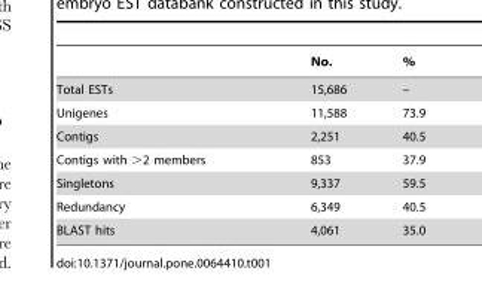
<table><thead><tr><td></td><td>No.</td><td>%</td></tr></thead><tbody><tr><td>Total ESTs</td><td>15,686</td><td>–</td></tr><tr><td>Unigenes</td><td>11,588</td><td>73.9</td></tr><tr><td>Contigs</td><td>2,251</td><td>40.5</td></tr><tr><td>Contigs with &gt;2 members</td><td>853</td><td>37.9</td></tr><tr><td>Singletons</td><td>9,337</td><td>59.5</td></tr><tr><td>Redundancy</td><td>6,349</td><td>40.5</td></tr><tr><td>BLAST hits</td><td>4,061</td><td>35.0</td></tr></tbody></table>